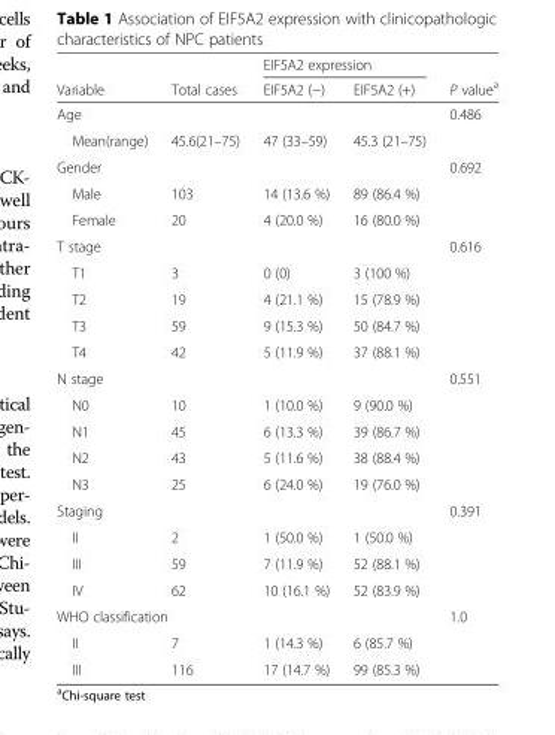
<table><thead><tr><td rowspan="2">Variable</td><td rowspan="2">Total cases</td><td colspan="2">EIF5A2 expression</td><td rowspan="2">P value<sup>a</sup></td></tr><tr><td>EIF5A2 (−)</td><td>EIF5A2 (+)</td></tr></thead><tbody><tr><td>Age</td><td></td><td></td><td></td><td>0.486</td></tr><tr><td>Mean(range)</td><td>45.6(21–75)</td><td>47 (33–59)</td><td>45.3 (21–75)</td><td></td></tr><tr><td>Gender</td><td></td><td></td><td></td><td>0.692</td></tr><tr><td>Male</td><td>103</td><td>14 (13.6 %)</td><td>89 (86.4 %)</td><td rowspan="2"></td></tr><tr><td>Female</td><td>20</td><td>4 (20.0 %)</td><td>16 (80.0 %)</td></tr><tr><td>T stage</td><td></td><td></td><td></td><td>0.616</td></tr><tr><td>T1</td><td>3</td><td>0 (0)</td><td>3 (100 %)</td><td rowspan="4"></td></tr><tr><td>T2</td><td>19</td><td>4 (21.1 %)</td><td>15 (78.9 %)</td></tr><tr><td>T3</td><td>59</td><td>9 (15.3 %)</td><td>50 (84.7 %)</td></tr><tr><td>T4</td><td>42</td><td>5 (11.9 %)</td><td>37 (88.1 %)</td></tr><tr><td>N stage</td><td></td><td></td><td></td><td>0.551</td></tr><tr><td>N0</td><td>10</td><td>1 (10.0 %)</td><td>9 (90.0 %)</td><td rowspan="4"></td></tr><tr><td>N1</td><td>45</td><td>6 (13.3 %)</td><td>39 (86.7 %)</td></tr><tr><td>N2</td><td>43</td><td>5 (11.6 %)</td><td>38 (88.4 %)</td></tr><tr><td>N3</td><td>25</td><td>6 (24.0 %)</td><td>19 (76.0 %)</td></tr><tr><td>Staging</td><td></td><td></td><td></td><td>0.391</td></tr><tr><td>II</td><td>2</td><td>1 (50.0 %)</td><td>1 (50.0 %)</td><td rowspan="3"></td></tr><tr><td>III</td><td>59</td><td>7 (11.9 %)</td><td>52 (88.1 %)</td></tr><tr><td>IV</td><td>62</td><td>10 (16.1 %)</td><td>52 (83.9 %)</td></tr><tr><td colspan="2">WHO classification</td><td></td><td></td><td>1.0</td></tr><tr><td>II</td><td>7</td><td>1 (14.3 %)</td><td>6 (85.7 %)</td><td rowspan="2"></td></tr><tr><td>III</td><td>116</td><td>17 (14.7 %)</td><td>99 (85.3 %)</td></tr></tbody></table>